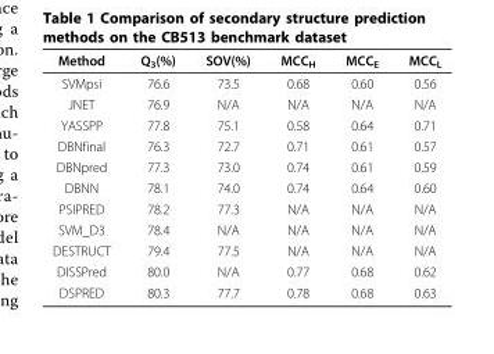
<table><thead><tr><td>Method</td><td>Q<sub>3</sub>(%)</td><td>SOV(%)</td><td>MCC<sub>H</sub></td><td>MCC<sub>E</sub></td><td>MCC<sub>L</sub></td></tr></thead><tbody><tr><td>SVMpsi</td><td>76.6</td><td>73.5</td><td>0.68</td><td>0.60</td><td>0.56</td></tr><tr><td>JNET</td><td>76.9</td><td>N/A</td><td>N/A</td><td>N/A</td><td>N/A</td></tr><tr><td>YASSPP</td><td>77.8</td><td>75.1</td><td>0.58</td><td>0.64</td><td>0.71</td></tr><tr><td>DBNfinal</td><td>76.3</td><td>72.7</td><td>0.71</td><td>0.61</td><td>0.57</td></tr><tr><td>DBNpred</td><td>77.3</td><td>73.0</td><td>0.74</td><td>0.61</td><td>0.59</td></tr><tr><td>DBNN</td><td>78.1</td><td>74.0</td><td>0.74</td><td>0.64</td><td>0.60</td></tr><tr><td>PSIPRED</td><td>78.2</td><td>77.3</td><td>N/A</td><td>N/A</td><td>N/A</td></tr><tr><td>SVM_D3</td><td>78.4</td><td>N/A</td><td>N/A</td><td>N/A</td><td>N/A</td></tr><tr><td>DESTRUCT</td><td>79.4</td><td>77.5</td><td>N/A</td><td>N/A</td><td>N/A</td></tr><tr><td>DISSPred</td><td>80.0</td><td>N/A</td><td>0.77</td><td>0.68</td><td>0.62</td></tr><tr><td>DSPRED</td><td>80.3</td><td>77.7</td><td>0.78</td><td>0.68</td><td>0.63</td></tr></tbody></table>